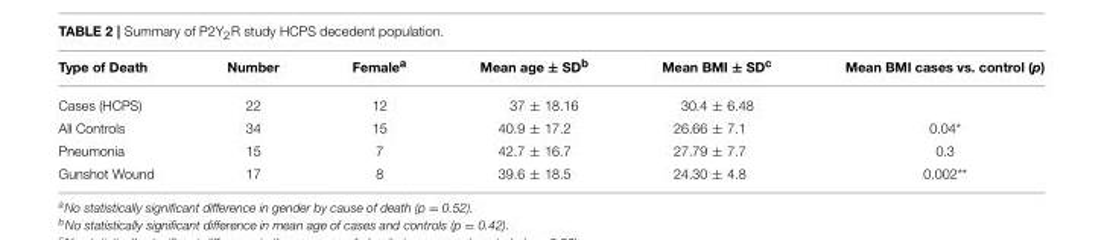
<table><thead><tr><td>Type of Death</td><td>Number</td><td>Female<sup>a</sup></td><td>Mean age ± SD<sup>b</sup></td><td>Mean BMI ± SD<sup>c</sup></td><td>Mean BMI cases vs. control (p)</td></tr></thead><tbody><tr><td>Cases (HCPS)</td><td>22</td><td>12</td><td>37 ± 18.16</td><td>30.4 ± 6.48</td><td></td></tr><tr><td>All Controls</td><td>34</td><td>15</td><td>40.9 ± 17.2</td><td>26.66 ± 7.1</td><td>0.04*</td></tr><tr><td>Pneumonia</td><td>15</td><td>7</td><td>42.7 ± 16.7</td><td>27.79 ± 7.7</td><td>0.3</td></tr><tr><td>Gunshot Wound</td><td>17</td><td>8</td><td>39.6 ± 18.5</td><td>24.30 ± 4.8</td><td>0.002**</td></tr></tbody></table>